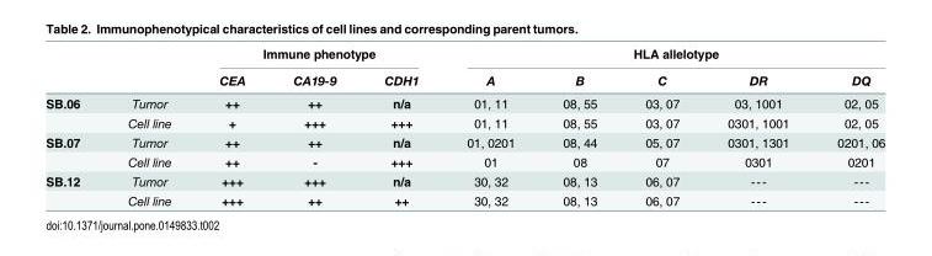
<table><thead><tr><td rowspan="2"></td><td rowspan="2"></td><td colspan="3">Immune phenotype</td><td colspan="5">HLA allelotype</td></tr><tr><td>CEA</td><td>CA19-9</td><td>CDH1</td><td>A</td><td>B</td><td>C</td><td>DR</td><td>DQ</td></tr></thead><tbody><tr><td rowspan="2">SB.06</td><td>Tumor</td><td>++</td><td>++</td><td>n/a</td><td>01, 11</td><td>08, 55</td><td>03, 07</td><td>03, 1001</td><td>02, 05</td></tr><tr><td>Cell line</td><td>+</td><td>+++</td><td>+++</td><td>01, 11</td><td>08, 55</td><td>03, 07</td><td>0301, 1001</td><td>02, 05</td></tr><tr><td rowspan="2">SB.07</td><td>Tumor</td><td>++</td><td>++</td><td>n/a</td><td>01, 0201</td><td>08, 44</td><td>05, 07</td><td>0301, 1301</td><td>0201, 06</td></tr><tr><td>Cell line</td><td>++</td><td>-</td><td>+++</td><td>01</td><td>08</td><td>07</td><td>0301</td><td>0201</td></tr><tr><td rowspan="2">SB.12</td><td>Tumor</td><td>+++</td><td>+++</td><td>n/a</td><td>30, 32</td><td>08, 13</td><td>06, 07</td><td>---</td><td>---</td></tr><tr><td>Cell line</td><td>+++</td><td>++</td><td>++</td><td>30, 32</td><td>08, 13</td><td>06, 07</td><td>---</td><td>---</td></tr></tbody></table>